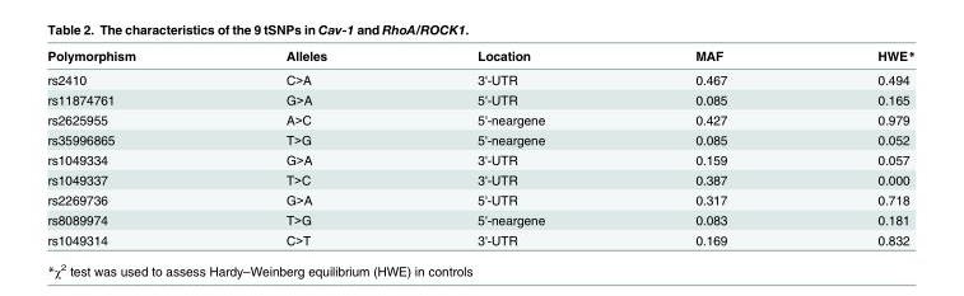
<table><thead><tr><td>Polymorphism</td><td>Alleles</td><td>Location</td><td>MAF</td><td>HWE*</td></tr></thead><tbody><tr><td>rs2410</td><td>C&gt;A</td><td>3&#x27;-UTR</td><td>0.467</td><td>0.494</td></tr><tr><td>rs11874761</td><td>G&gt;A</td><td>5&#x27;-UTR</td><td>0.085</td><td>0.165</td></tr><tr><td>rs2625955</td><td>A&gt;C</td><td>5&#x27;-neargene</td><td>0.427</td><td>0.979</td></tr><tr><td>rs35996865</td><td>T&gt;G</td><td>5&#x27;-neargene</td><td>0.085</td><td>0.052</td></tr><tr><td>rs1049334</td><td>G&gt;A</td><td>3&#x27;-UTR</td><td>0.159</td><td>0.057</td></tr><tr><td>rs1049337</td><td>T&gt;C</td><td>3&#x27;-UTR</td><td>0.387</td><td>0.000</td></tr><tr><td>rs2269736</td><td>G&gt;A</td><td>5&#x27;-UTR</td><td>0.317</td><td>0.718</td></tr><tr><td>rs8089974</td><td>T&gt;G</td><td>5&#x27;-neargene</td><td>0.083</td><td>0.181</td></tr><tr><td>rs1049314</td><td>C&gt;T</td><td>3&#x27;-UTR</td><td>0.169</td><td>0.832</td></tr></tbody></table>